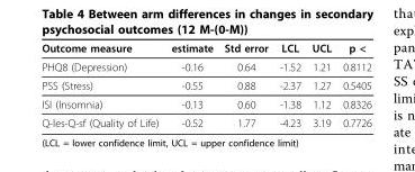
<table><thead><tr><td>Outcome measure</td><td>estimate</td><td>Std error</td><td>LCL</td><td>UCL</td><td>p &lt;</td></tr></thead><tbody><tr><td>PHQ8 (Depression)</td><td>-0.16</td><td>0.64</td><td>-1.52</td><td>1.21</td><td>0.8112</td></tr><tr><td>PSS (Stress)</td><td>-0.55</td><td>0.88</td><td>-2.37</td><td>1.27</td><td>0.5405</td></tr><tr><td>ISI (Insomnia)</td><td>-0.13</td><td>0.60</td><td>-1.38</td><td>1.12</td><td>0.8326</td></tr><tr><td>Q-les-Q-sf (Quality of Life)</td><td>-0.52</td><td>1.77</td><td>-4.23</td><td>3.19</td><td>0.7726</td></tr></tbody></table>